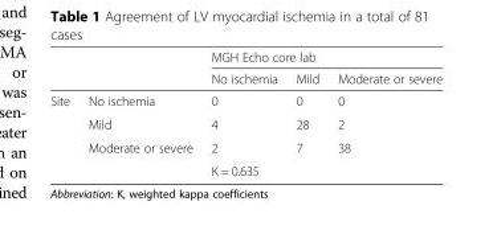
<table><thead><tr><td rowspan="2"></td><td rowspan="2"></td><td colspan="3">MGH Echo core lab</td></tr><tr><td>No ischemia</td><td>Mild</td><td>Moderate or severe</td></tr></thead><tbody><tr><td rowspan="4">Site</td><td>No ischemia</td><td>0</td><td>0</td><td>0</td></tr><tr><td>Mild</td><td>4</td><td>28</td><td>2</td></tr><tr><td>Moderate or severe</td><td>2</td><td>7</td><td>38</td></tr><tr><td></td><td colspan="3">K = 0.635</td></tr></tbody></table>